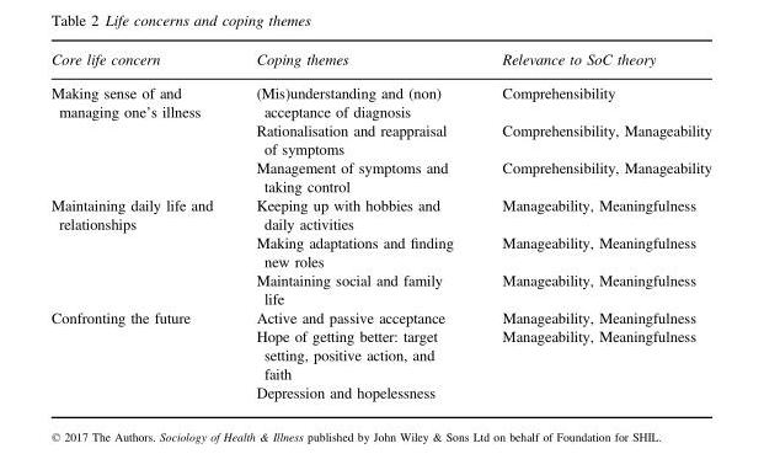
<table><thead><tr><td>Core life concern</td><td>Coping themes</td><td>Relevance to SoC theory</td></tr></thead><tbody><tr><td rowspan="3">Making sense of and managing one’s illness</td><td>(Mis)understanding and (non) acceptance of diagnosis</td><td>Comprehensibility</td></tr><tr><td>Rationalisation and reappraisal of symptoms</td><td>Comprehensibility, Manageability</td></tr><tr><td>Management of symptoms and taking control</td><td>Comprehensibility, Manageability</td></tr><tr><td rowspan="3">Maintaining daily life and relationships</td><td>Keeping up with hobbies and daily activities</td><td>Manageability, Meaningfulness</td></tr><tr><td>Making adaptations and finding new roles</td><td>Manageability, Meaningfulness</td></tr><tr><td>Maintaining social and family life</td><td>Manageability, Meaningfulness</td></tr><tr><td rowspan="3">Confronting the future</td><td>Active and passive acceptance</td><td>Manageability, Meaningfulness</td></tr><tr><td>Hope of getting better: target setting, positive action, and faith</td><td>Manageability, Meaningfulness</td></tr><tr><td>Depression and hopelessness</td><td></td></tr></tbody></table>